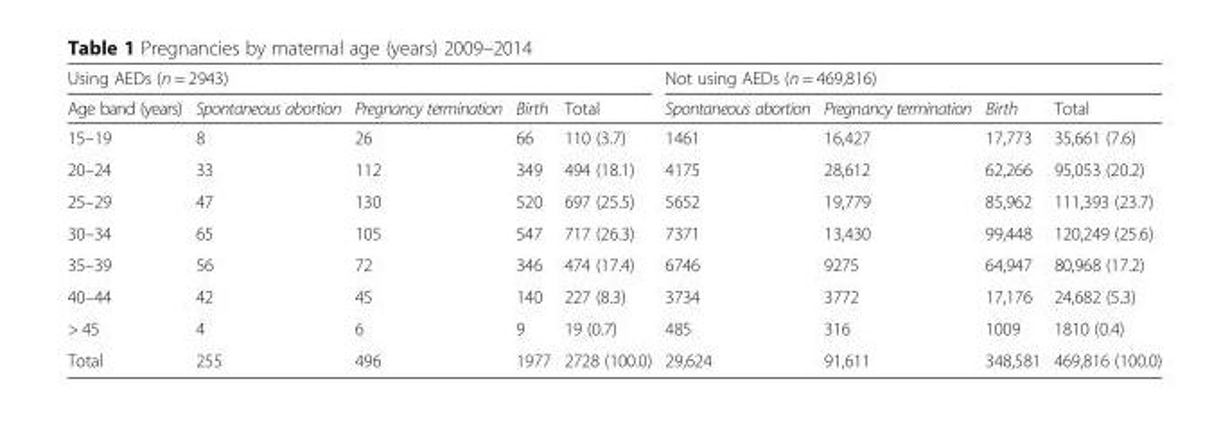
<table><thead><tr><td colspan="5">Using AEDs (n = 2943)</td><td colspan="4">Not using AEDs (n = 469,816)</td></tr><tr><td>Age band (years)</td><td>Spontaneous abortion</td><td>Pregnancy termination</td><td>Birth</td><td>Total</td><td>Spontaneous abortion</td><td>Pregnancy termination</td><td>Birth</td><td>Total</td></tr></thead><tbody><tr><td>15–19</td><td>8</td><td>26</td><td>66</td><td>110 (3.7)</td><td>1461</td><td>16,427</td><td>17,773</td><td>35,661 (7.6)</td></tr><tr><td>20–24</td><td>33</td><td>112</td><td>349</td><td>494 (18.1)</td><td>4175</td><td>28,612</td><td>62,266</td><td>95,053 (20.2)</td></tr><tr><td>25–29</td><td>47</td><td>130</td><td>520</td><td>697 (25.5)</td><td>5652</td><td>19,779</td><td>85,962</td><td>111,393 (23.7)</td></tr><tr><td>30–34</td><td>65</td><td>105</td><td>547</td><td>717 (26.3)</td><td>7371</td><td>13,430</td><td>99,448</td><td>120,249 (25.6)</td></tr><tr><td>35–39</td><td>56</td><td>72</td><td>346</td><td>474 (17.4)</td><td>6746</td><td>9275</td><td>64,947</td><td>80,968 (17.2)</td></tr><tr><td>40–44</td><td>42</td><td>45</td><td>140</td><td>227 (8.3)</td><td>3734</td><td>3772</td><td>17,176</td><td>24,682 (5.3)</td></tr><tr><td>&gt; 45</td><td>4</td><td>6</td><td>9</td><td>19 (0.7)</td><td>485</td><td>316</td><td>1009</td><td>1810 (0.4)</td></tr><tr><td>Total</td><td>255</td><td>496</td><td>1977</td><td>2728 (100.0)</td><td>29,624</td><td>91,611</td><td>348,581</td><td>469,816 (100.0)</td></tr></tbody></table>